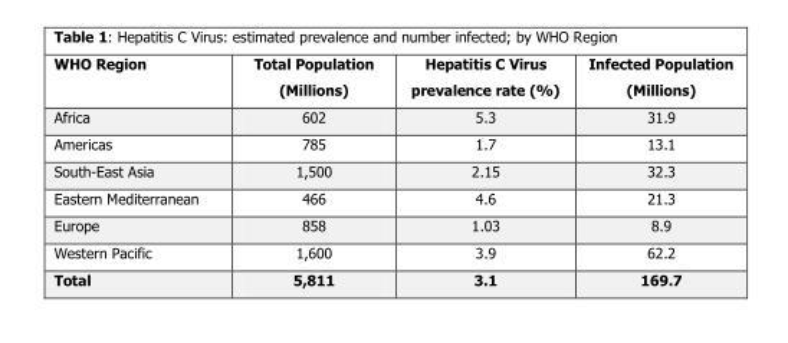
<table><thead><tr><td>WHO Region</td><td>Total Population (Millions)</td><td>Hepatitis C Virus prevalence rate (%)</td><td>Infected Population (Millions)</td></tr></thead><tbody><tr><td>Africa</td><td>602</td><td>5.3</td><td>31.9</td></tr><tr><td>Americas</td><td>785</td><td>1.7</td><td>13.1</td></tr><tr><td>South-East Asia</td><td>1,500</td><td>2.15</td><td>32.3</td></tr><tr><td>Eastern Mediterranean</td><td>466</td><td>4.6</td><td>21.3</td></tr><tr><td>Europe</td><td>858</td><td>1.03</td><td>8.9</td></tr><tr><td>Western Pacific</td><td>1,600</td><td>3.9</td><td>62.2</td></tr><tr><td>Total</td><td>5,811</td><td>3.1</td><td>169.7</td></tr></tbody></table>